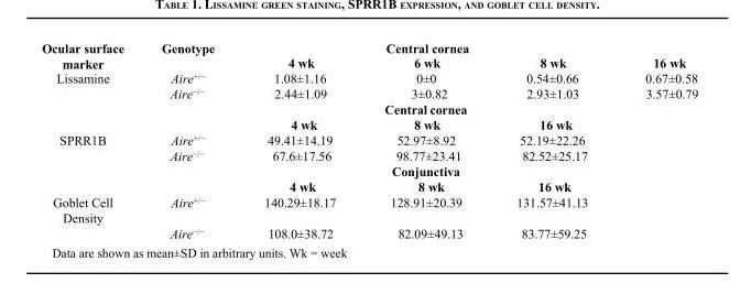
<table><tbody><tr><td rowspan="2">Ocular surface marker</td><td rowspan="2">Genotype</td><td colspan="4">Central cornea</td></tr><tr><td>4 wk</td><td>6 wk</td><td>8 wk</td><td>16 wk</td></tr><tr><td rowspan="2">Lissamine</td><td>Aire<sup>+/−</sup></td><td>1.08±1.16</td><td>0±0</td><td>0.54±0.66</td><td>0.67±0.58</td></tr><tr><td>Aire<sup>−/−</sup></td><td>2.44±1.09</td><td>3±0.82</td><td>2.93±1.03</td><td>3.57±0.79</td></tr><tr><td rowspan="2" colspan="2"></td><td colspan="3">Central cornea</td><td rowspan="8"></td></tr><tr><td>4 wk</td><td>8 wk</td><td>16 wk</td></tr><tr><td rowspan="2">SPRR1B</td><td>Aire<sup>+/−</sup></td><td>49.41±14.19</td><td>52.97±8.92</td><td>52.19±22.26</td></tr><tr><td>Aire<sup>−/−</sup></td><td>67.6±17.56</td><td>98.77±23.41</td><td>82.52±25.17</td></tr><tr><td rowspan="2" colspan="2"></td><td colspan="3">Conjunctiva</td></tr><tr><td>4 wk</td><td>8 wk</td><td>16 wk</td></tr><tr><td rowspan="2">Goblet Cell Density</td><td>Aire<sup>+/−</sup></td><td>140.29±18.17</td><td>128.91±20.39</td><td>131.57±41.13</td></tr><tr><td>Aire<sup>−/−</sup></td><td>108.0±38.72</td><td>82.09±49.13</td><td>83.77±59.25</td></tr></tbody></table>